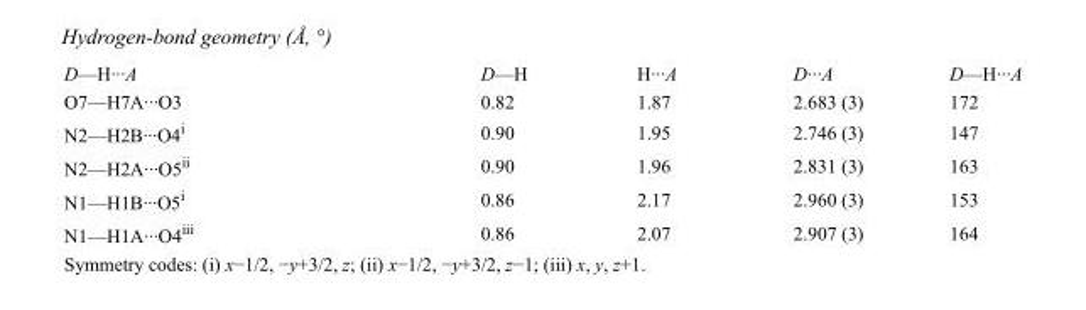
<table><tbody><tr><td>D—H···A</td><td>D—H</td><td>H···A</td><td>D···A</td><td>D—H···A</td></tr><tr><td>O7—H7A···O3</td><td>0.82</td><td>1.87</td><td>2.683 (3)</td><td>172</td></tr><tr><td>N2—H2B···O4<sup>i</sup></td><td>0.90</td><td>1.95</td><td>2.746 (3)</td><td>147</td></tr><tr><td>N2—H2A···O5<sup>ii</sup></td><td>0.90</td><td>1.96</td><td>2.831 (3)</td><td>163</td></tr><tr><td>N1—H1B···O5<sup>i</sup></td><td>0.86</td><td>2.17</td><td>2.960 (3)</td><td>153</td></tr><tr><td>N1—H1A···O4<sup>iii</sup></td><td>0.86</td><td>2.07</td><td>2.907 (3)</td><td>164</td></tr></tbody></table>